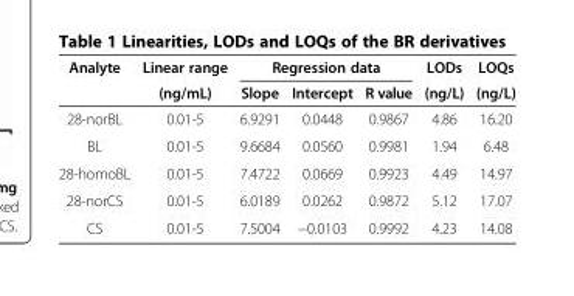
<table><thead><tr><td rowspan="2">Analyte</td><td rowspan="2">Linear range (ng/mL)</td><td colspan="3">Regression data</td><td rowspan="2">LODs (ng/L)</td><td rowspan="2">LOQs (ng/L)</td></tr><tr><td>Slope</td><td>Intercept</td><td>R value</td></tr></thead><tbody><tr><td>28-norBL</td><td>0.01-5</td><td>6.9291</td><td>0.0448</td><td>0.9867</td><td>4.86</td><td>16.20</td></tr><tr><td>BL</td><td>0.01-5</td><td>9.6684</td><td>0.0560</td><td>0.9981</td><td>1.94</td><td>6.48</td></tr><tr><td>28-homoBL</td><td>0.01-5</td><td>7.4722</td><td>0.0669</td><td>0.9923</td><td>4.49</td><td>14.97</td></tr><tr><td>28-norCS</td><td>0.01-5</td><td>6.0189</td><td>0.0262</td><td>0.9872</td><td>5.12</td><td>17.07</td></tr><tr><td>CS</td><td>0.01-5</td><td>7.5004</td><td>−0.0103</td><td>0.9992</td><td>4.23</td><td>14.08</td></tr></tbody></table>